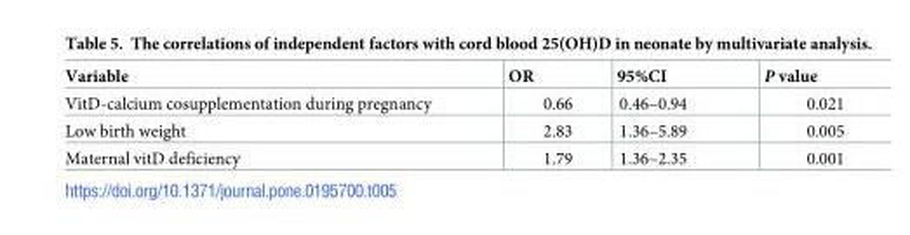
<table><thead><tr><td>Variable</td><td>OR</td><td>95%CI</td><td>P value</td></tr></thead><tbody><tr><td>VitD-calcium cosupplementation during pregnancy</td><td>0.66</td><td>0.46–0.94</td><td>0.021</td></tr><tr><td>Low birth weight</td><td>2.83</td><td>1.36–5.89</td><td>0.005</td></tr><tr><td>Maternal vitD deficiency</td><td>1.79</td><td>1.36–2.35</td><td>0.001</td></tr></tbody></table>